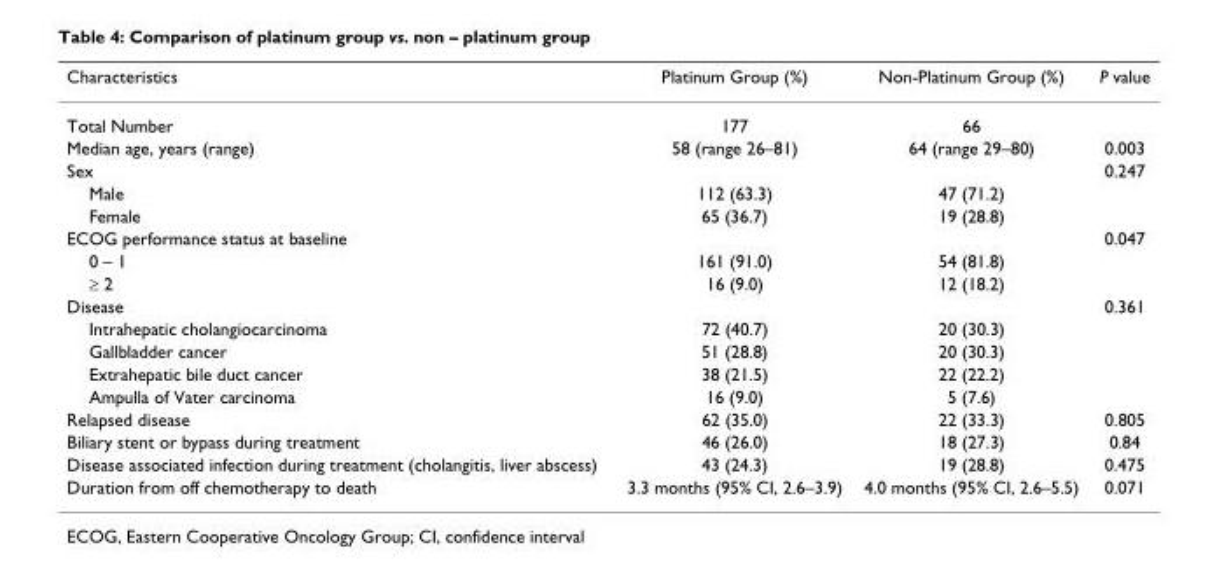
<table><thead><tr><td>Characteristics</td><td>Platinum Group (%)</td><td>Non-Platinum Group (%)</td><td>P value</td></tr></thead><tbody><tr><td>Total Number</td><td>177</td><td>66</td><td></td></tr><tr><td>Median age, years (range)</td><td>58 (range 26–81)</td><td>64 (range 29–80)</td><td>0.003</td></tr><tr><td>Sex</td><td></td><td></td><td>0.247</td></tr><tr><td>Male</td><td>112 (63.3)</td><td>47 (71.2)</td><td></td></tr><tr><td>Female</td><td>65 (36.7)</td><td>19 (28.8)</td><td></td></tr><tr><td>ECOG performance status at baseline</td><td></td><td></td><td>0.047</td></tr><tr><td>0 – 1</td><td>161 (91.0)</td><td>54 (81.8)</td><td></td></tr><tr><td>≥ 2</td><td>16 (9.0)</td><td>12 (18.2)</td><td></td></tr><tr><td>Disease</td><td></td><td></td><td>0.361</td></tr><tr><td>Intrahepatic cholangiocarcinoma</td><td>72 (40.7)</td><td>20 (30.3)</td><td></td></tr><tr><td>Gallbladder cancer</td><td>51 (28.8)</td><td>20 (30.3)</td><td></td></tr><tr><td>Extrahepatic bile duct cancer</td><td>38 (21.5)</td><td>22 (22.2)</td><td></td></tr><tr><td>Ampulla of Vater carcinoma</td><td>16 (9.0)</td><td>5 (7.6)</td><td></td></tr><tr><td>Relapsed disease</td><td>62 (35.0)</td><td>22 (33.3)</td><td>0.805</td></tr><tr><td>Biliary stent or bypass during treatment</td><td>46 (26.0)</td><td>18 (27.3)</td><td>0.84</td></tr><tr><td>Disease associated infection during treatment (cholangitis, liver abscess)</td><td>43 (24.3)</td><td>19 (28.8)</td><td>0.475</td></tr><tr><td>Duration from off chemotherapy to death</td><td>3.3 months (95% CI, 2.6–3.9)</td><td>4.0 months (95% CI, 2.6–5.5)</td><td>0.071</td></tr></tbody></table>